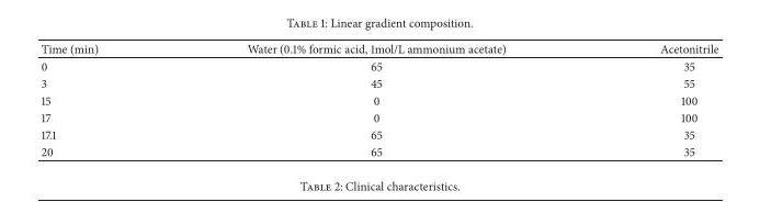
<table><thead><tr><td>Time (min)</td><td>Water (0.1% formic acid, 1mol/L ammonium acetate)</td><td>Acetonitrile</td></tr></thead><tbody><tr><td>0</td><td>65</td><td>35</td></tr><tr><td>3</td><td>45</td><td>55</td></tr><tr><td>15</td><td>0</td><td>100</td></tr><tr><td>17</td><td>0</td><td>100</td></tr><tr><td>17.1</td><td>65</td><td>35</td></tr><tr><td>20</td><td>65</td><td>35</td></tr></tbody></table>